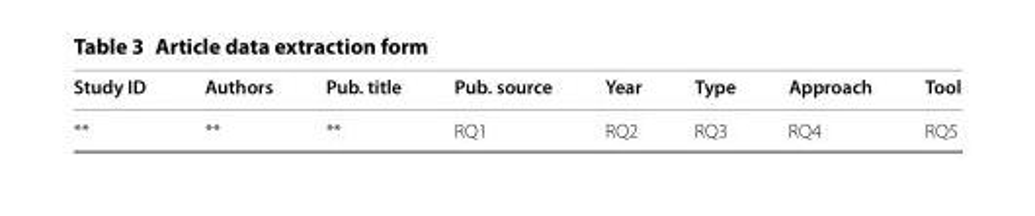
<table><thead><tr><td>Study ID</td><td>Authors</td><td>Pub. title</td><td>Pub. source</td><td>Year</td><td>Type</td><td>Approach</td><td>Tool</td></tr></thead><tbody><tr><td>**</td><td>**</td><td>**</td><td>RQ1</td><td>RQ2</td><td>RQ3</td><td>RQ4</td><td>RQ5</td></tr></tbody></table>